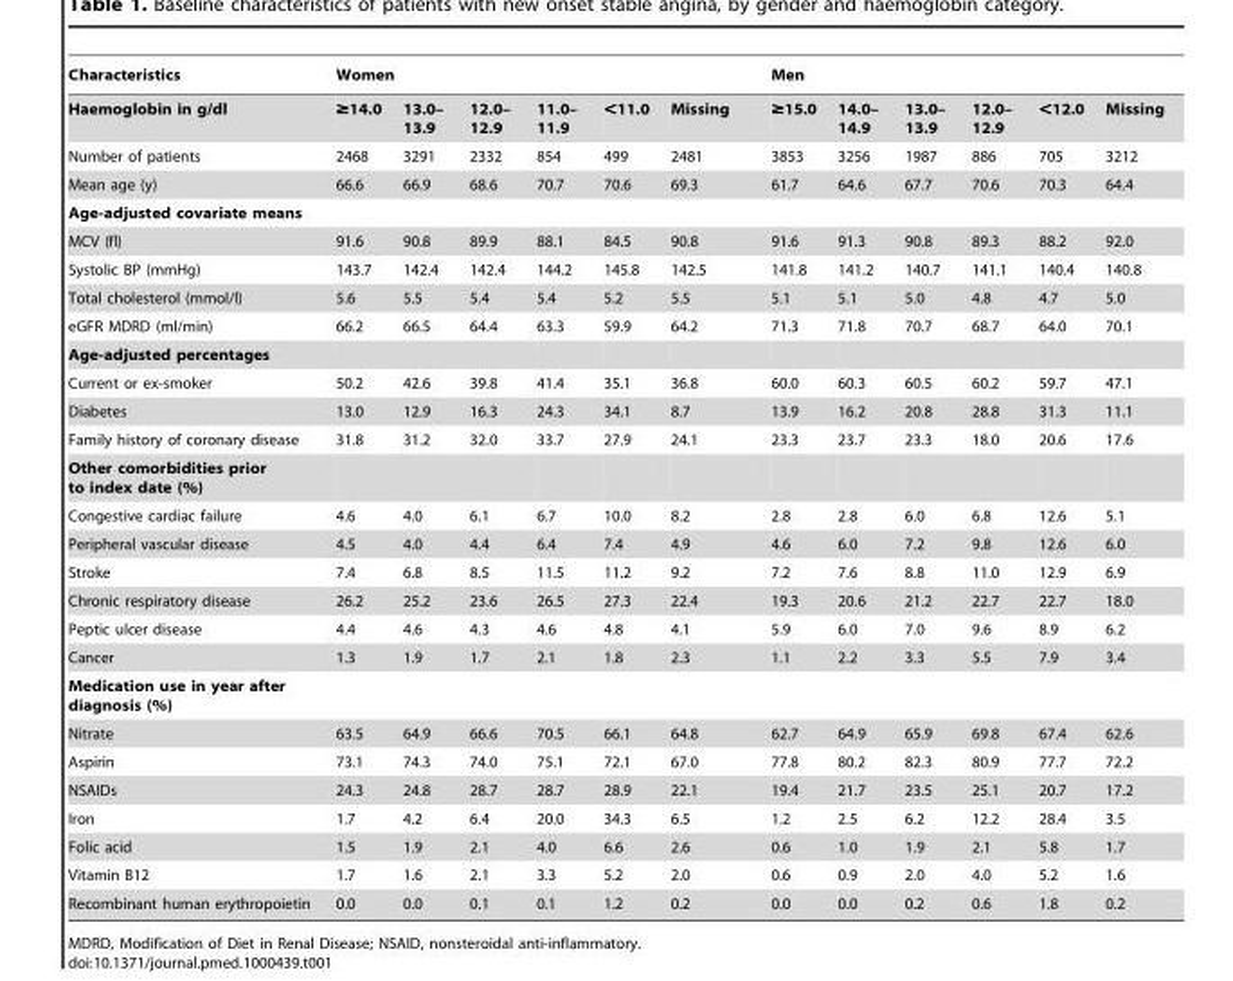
<table><thead><tr><td rowspan="2">Characteristics Haemoglobin in g/dl</td><td colspan="6">Women</td><td colspan="6">Men</td></tr><tr><td>≥14.0</td><td>13.0– 13.9</td><td>12.0– 12.9</td><td>11.0– 11.9</td><td>&lt;11.0</td><td>Missing</td><td>≥15.0</td><td>14.0– 14.9</td><td>13.0– 13.9</td><td>12.0– 12.9</td><td>&lt;12.0</td><td>Missing</td></tr></thead><tbody><tr><td>Number of patients</td><td>2468</td><td>3291</td><td>2332</td><td>854</td><td>499</td><td>2481</td><td>3853</td><td>3256</td><td>1987</td><td>886</td><td>705</td><td>3212</td></tr><tr><td>Mean age (y)</td><td>66.6</td><td>66.9</td><td>68.6</td><td>70.7</td><td>70.6</td><td>69.3</td><td>61.7</td><td>64.6</td><td>67.7</td><td>70.6</td><td>70.3</td><td>64.4</td></tr><tr><td colspan="13">Age-adjusted covariate means</td></tr><tr><td>MCV (fl)</td><td>91.6</td><td>90.8</td><td>89.9</td><td>88.1</td><td>84.5</td><td>90.8</td><td>91.6</td><td>91.3</td><td>90.8</td><td>89.3</td><td>88.2</td><td>92.0</td></tr><tr><td>Systolic BP (mmHg)</td><td>143.7</td><td>142.4</td><td>142.4</td><td>144.2</td><td>145.8</td><td>142.5</td><td>141.8</td><td>141.2</td><td>140.7</td><td>141.1</td><td>140.4</td><td>140.8</td></tr><tr><td>Total cholesterol (mmol/l)</td><td>5.6</td><td>5.5</td><td>5.4</td><td>5.4</td><td>5.2</td><td>5.5</td><td>5.1</td><td>5.1</td><td>5.0</td><td>4.8</td><td>4.7</td><td>5.0</td></tr><tr><td>eGFR MDRD (ml/min)</td><td>66.2</td><td>66.5</td><td>64.4</td><td>63.3</td><td>59.9</td><td>64.2</td><td>71.3</td><td>71.8</td><td>70.7</td><td>68.7</td><td>64.0</td><td>70.1</td></tr><tr><td colspan="13">Age-adjusted percentages</td></tr><tr><td>Current or ex-smoker</td><td>50.2</td><td>42.6</td><td>39.8</td><td>41.4</td><td>35.1</td><td>36.8</td><td>60.0</td><td>60.3</td><td>60.5</td><td>60.2</td><td>59.7</td><td>47.1</td></tr><tr><td>Diabetes</td><td>13.0</td><td>12.9</td><td>16.3</td><td>24.3</td><td>34.1</td><td>8.7</td><td>13.9</td><td>16.2</td><td>20.8</td><td>28.8</td><td>31.3</td><td>11.1</td></tr><tr><td>Family history of coronary disease</td><td>31.8</td><td>31.2</td><td>32.0</td><td>33.7</td><td>27.9</td><td>24.1</td><td>23.3</td><td>23.7</td><td>23.3</td><td>18.0</td><td>20.6</td><td>17.6</td></tr><tr><td colspan="13">Other comorbidities prior to index date (%)</td></tr><tr><td>Congestive cardiac failure</td><td>4.6</td><td>4.0</td><td>6.1</td><td>6.7</td><td>10.0</td><td>8.2</td><td>2.8</td><td>2.8</td><td>6.0</td><td>6.8</td><td>12.6</td><td>5.1</td></tr><tr><td>Peripheral vascular disease</td><td>4.5</td><td>4.0</td><td>4.4</td><td>6.4</td><td>7.4</td><td>4.9</td><td>4.6</td><td>6.0</td><td>7.2</td><td>9.8</td><td>12.6</td><td>6.0</td></tr><tr><td>Stroke</td><td>7.4</td><td>6.8</td><td>8.5</td><td>11.5</td><td>11.2</td><td>9.2</td><td>7.2</td><td>7.6</td><td>8.8</td><td>11.0</td><td>12.9</td><td>6.9</td></tr><tr><td>Chronic respiratory disease</td><td>26.2</td><td>25.2</td><td>23.6</td><td>26.5</td><td>27.3</td><td>22.4</td><td>19.3</td><td>20.6</td><td>21.2</td><td>22.7</td><td>22.7</td><td>18.0</td></tr><tr><td>Peptic ulcer disease</td><td>4.4</td><td>4.6</td><td>4.3</td><td>4.6</td><td>4.8</td><td>4.1</td><td>5.9</td><td>6.0</td><td>7.0</td><td>9.6</td><td>8.9</td><td>6.2</td></tr><tr><td>Cancer</td><td>1.3</td><td>1.9</td><td>1.7</td><td>2.1</td><td>1.8</td><td>2.3</td><td>1.1</td><td>2.2</td><td>3.3</td><td>5.5</td><td>7.9</td><td>3.4</td></tr><tr><td colspan="13">Medication use in year after diagnosis (%)</td></tr><tr><td>Nitrate</td><td>63.5</td><td>64.9</td><td>66.6</td><td>70.5</td><td>66.1</td><td>64.8</td><td>62.7</td><td>64.9</td><td>65.9</td><td>69.8</td><td>67.4</td><td>62.6</td></tr><tr><td>Aspirin</td><td>73.1</td><td>74.3</td><td>74.0</td><td>75.1</td><td>72.1</td><td>67.0</td><td>77.8</td><td>80.2</td><td>82.3</td><td>80.9</td><td>77.7</td><td>72.2</td></tr><tr><td>NSAIDs</td><td>24.3</td><td>24.8</td><td>28.7</td><td>28.7</td><td>28.9</td><td>22.1</td><td>19.4</td><td>21.7</td><td>23.5</td><td>25.1</td><td>20.7</td><td>17.2</td></tr><tr><td>Iron</td><td>1.7</td><td>4.2</td><td>6.4</td><td>20.0</td><td>34.3</td><td>6.5</td><td>1.2</td><td>2.5</td><td>6.2</td><td>12.2</td><td>28.4</td><td>3.5</td></tr><tr><td>Folic acid</td><td>1.5</td><td>1.9</td><td>2.1</td><td>4.0</td><td>6.6</td><td>2.6</td><td>0.6</td><td>1.0</td><td>1.9</td><td>2.1</td><td>5.8</td><td>1.7</td></tr><tr><td>Vitamin B12</td><td>1.7</td><td>1.6</td><td>2.1</td><td>3.3</td><td>5.2</td><td>2.0</td><td>0.6</td><td>0.9</td><td>2.0</td><td>4.0</td><td>5.2</td><td>1.6</td></tr><tr><td>Recombinant human erythropoietin</td><td>0.0</td><td>0.0</td><td>0.1</td><td>0.1</td><td>1.2</td><td>0.2</td><td>0.0</td><td>0.0</td><td>0.2</td><td>0.6</td><td>1.8</td><td>0.2</td></tr></tbody></table>